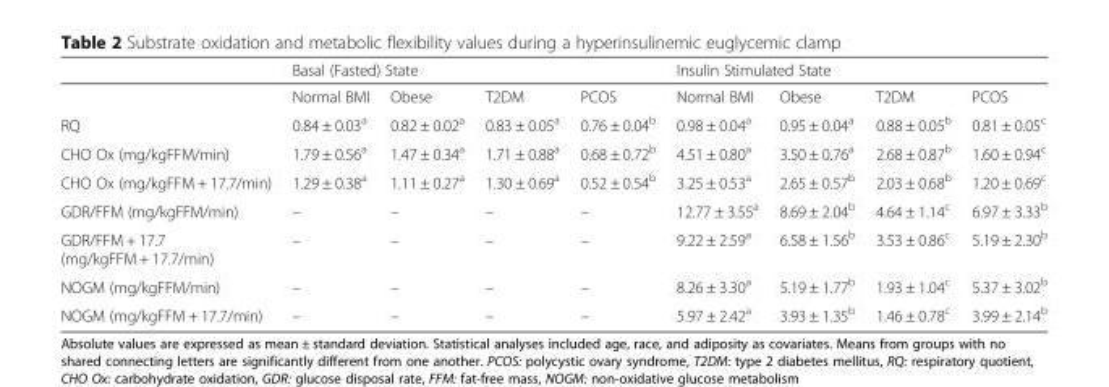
<table><thead><tr><td rowspan="2"></td><td colspan="4">Basal (Fasted) State</td><td colspan="4">Insulin Stimulated State</td></tr><tr><td>Normal BMI</td><td>Obese</td><td>T2DM</td><td>PCOS</td><td>Normal BMI</td><td>Obese</td><td>T2DM</td><td>PCOS</td></tr></thead><tbody><tr><td>RQ</td><td>0.84 ± 0.03<sup>a</sup></td><td>0.82 ± 0.02<sup>a</sup></td><td>0.83 ± 0.05<sup>a</sup></td><td>0.76 ± 0.04<sup>b</sup></td><td>0.98 ± 0.04<sup>a</sup></td><td>0.95 ± 0.04<sup>a</sup></td><td>0.88 ± 0.05<sup>b</sup></td><td>0.81 ± 0.05<sup>c</sup></td></tr><tr><td>CHO Ox (mg/kgFFM/min)</td><td>1.79 ± 0.56<sup>a</sup></td><td>1.47 ± 0.34<sup>a</sup></td><td>1.71 ± 0.88<sup>a</sup></td><td>0.68 ± 0.72<sup>b</sup></td><td>4.51 ± 0.80<sup>a</sup></td><td>3.50 ± 0.76<sup>a</sup></td><td>2.68 ± 0.87<sup>b</sup></td><td>1.60 ± 0.94<sup>c</sup></td></tr><tr><td>CHO Ox (mg/kgFFM + 17.7/min)</td><td>1.29 ± 0.38<sup>a</sup></td><td>1.11 ± 0.27<sup>a</sup></td><td>1.30 ± 0.69<sup>a</sup></td><td>0.52 ± 0.54<sup>b</sup></td><td>3.25 ± 0.53<sup>a</sup></td><td>2.65 ± 0.57<sup>b</sup></td><td>2.03 ± 0.68<sup>b</sup></td><td>1.20 ± 0.69<sup>c</sup></td></tr><tr><td>GDR/FFM (mg/kgFFM/min)</td><td>–</td><td>–</td><td>–</td><td>–</td><td>12.77 ± 3.55<sup>a</sup></td><td>8.69 ± 2.04<sup>b</sup></td><td>4.64 ± 1.14<sup>c</sup></td><td>6.97 ± 3.33<sup>b</sup></td></tr><tr><td>GDR/FFM + 17.7 (mg/kgFFM + 17.7/min)</td><td>–</td><td>–</td><td>–</td><td>–</td><td>9.22 ± 2.59<sup>a</sup></td><td>6.58 ± 1.56<sup>b</sup></td><td>3.53 ± 0.86<sup>c</sup></td><td>5.19 ± 2.30<sup>b</sup></td></tr><tr><td>NOGM (mg/kgFFM/min)</td><td>–</td><td>–</td><td>–</td><td>–</td><td>8.26 ± 3.30<sup>a</sup></td><td>5.19 ± 1.77<sup>b</sup></td><td>1.93 ± 1.04<sup>c</sup></td><td>5.37 ± 3.02<sup>b</sup></td></tr><tr><td>NOGM (mg/kgFFM + 17.7/min)</td><td>–</td><td>–</td><td>–</td><td>–</td><td>5.97 ± 2.42<sup>a</sup></td><td>3.93 ± 1.35<sup>b</sup></td><td>1.46 ± 0.78<sup>c</sup></td><td>3.99 ± 2.14<sup>b</sup></td></tr></tbody></table>